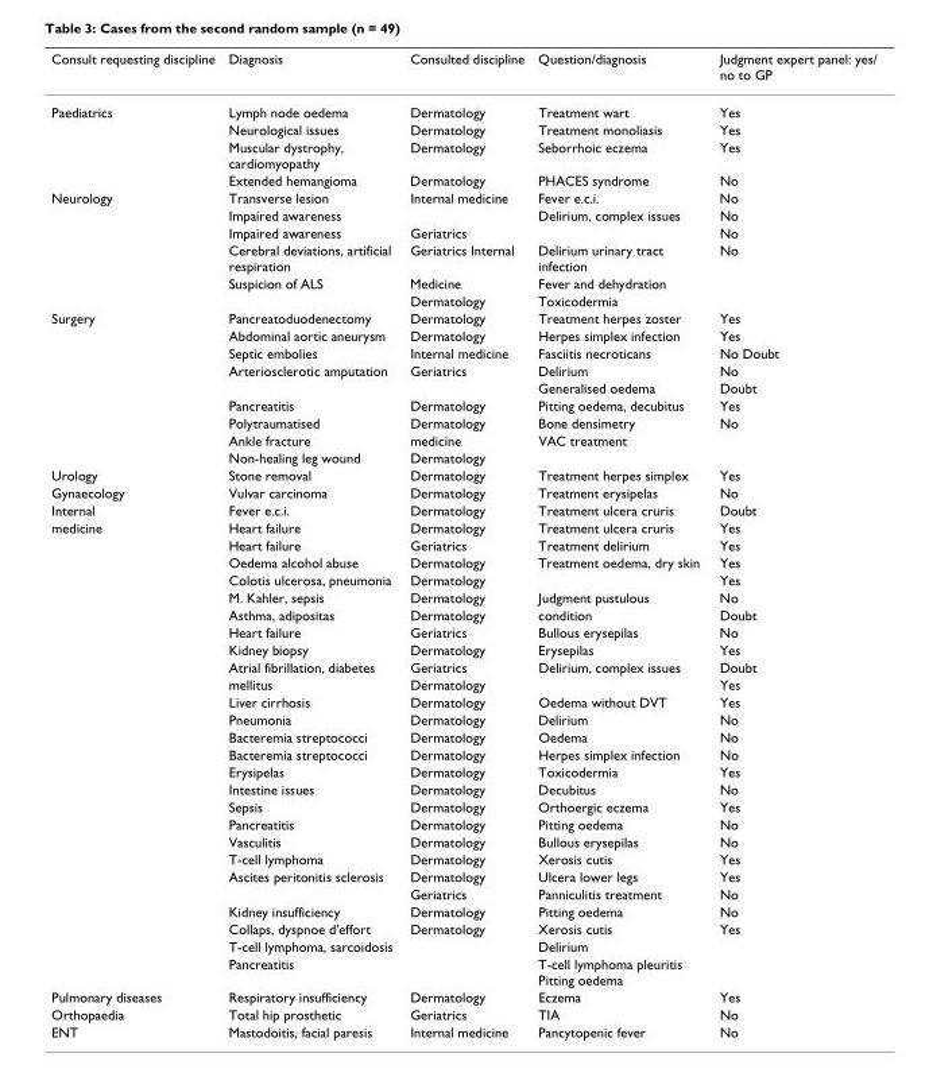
<table><thead><tr><td>Consult requesting discipline</td><td>Diagnosis</td><td>Consulted discipline</td><td>Question/diagnosis</td><td>Judgment expert panel: yes/ no to GP</td></tr></thead><tbody><tr><td rowspan="4">Paediatrics</td><td>Lymph node oedema</td><td>Dermatology</td><td>Treatment wart</td><td>Yes</td></tr><tr><td>Neurological issues</td><td>Dermatology</td><td>Treatment monoliasis</td><td>Yes</td></tr><tr><td>Muscular dystrophy, cardiomyopathy</td><td>Dermatology</td><td>Seborrhoic eczema</td><td>Yes</td></tr><tr><td>Extended hemangioma</td><td>Dermatology</td><td>PHACES syndrome</td><td>No</td></tr><tr><td rowspan="6">Neurology</td><td>Transverse lesion</td><td>Internal medicine</td><td>Fever e.c.i.</td><td>No</td></tr><tr><td>Impaired awareness</td><td></td><td>Delirium, complex issues</td><td>No</td></tr><tr><td>Impaired awareness</td><td>Geriatrics</td><td></td><td>No</td></tr><tr><td>Cerebral deviations, artificial respiration</td><td>Geriatrics Internal</td><td>Delirium urinary tract infection</td><td>No</td></tr><tr><td>Suspicion of ALS</td><td>Medicine</td><td>Fever and dehydration</td><td></td></tr><tr><td></td><td>Dermatology</td><td>Toxicodermia</td><td></td></tr><tr><td rowspan="9">Surgery</td><td>Pancreatoduodenectomy</td><td>Dermatology</td><td>Treatment herpes zoster</td><td>Yes</td></tr><tr><td>Abdominal aortic aneurysm</td><td>Dermatology</td><td>Herpes simplex infection</td><td>Yes</td></tr><tr><td>Septic embolies</td><td>Internal medicine</td><td>Fasciitis necroticans</td><td>No Doubt</td></tr><tr><td>Arteriosclerotic amputation</td><td>Geriatrics</td><td>Delirium</td><td>No</td></tr><tr><td></td><td></td><td>Generalised oedema</td><td>Doubt</td></tr><tr><td>Pancreatitis</td><td>Dermatology</td><td>Pitting oedema, decubitus</td><td>Yes</td></tr><tr><td>Polytraumatised</td><td>Dermatology</td><td>Bone densimetry</td><td>No</td></tr><tr><td>Ankle fracture</td><td>medicine</td><td>VAC treatment</td><td></td></tr><tr><td>Non-healing leg wound</td><td>Dermatology</td><td></td><td></td></tr><tr><td>Urology</td><td>Stone removal</td><td>Dermatology</td><td>Treatment herpes simplex</td><td>Yes</td></tr><tr><td>Gynaecology</td><td>Vulvar carcinoma</td><td>Dermatology</td><td>Treatment erysipelas</td><td>No</td></tr><tr><td>Internal</td><td>Fever e.c.i.</td><td>Dermatology</td><td>Treatment ulcera cruris</td><td>Doubt</td></tr><tr><td rowspan="26">medicine</td><td>Heart failure</td><td>Dermatology</td><td>Treatment ulcera cruris</td><td>Yes</td></tr><tr><td>Heart failure</td><td>Geriatrics</td><td>Treatment delirium</td><td>Yes</td></tr><tr><td>Oedema alcohol abuse</td><td>Dermatology</td><td>Treatment oedema, dry skin</td><td>Yes</td></tr><tr><td>Colotis ulcerosa, pneumonia</td><td>Dermatology</td><td></td><td>Yes</td></tr><tr><td>M. Kahler, sepsis</td><td>Dermatology</td><td>Judgment pustulous</td><td>No</td></tr><tr><td>Asthma, adipositas</td><td>Dermatology</td><td>condition</td><td>Doubt</td></tr><tr><td>Heart failure</td><td>Geriatrics</td><td>Bullous erysepilas</td><td>No</td></tr><tr><td>Kidney biopsy</td><td>Dermatology</td><td>Erysepilas</td><td>Yes</td></tr><tr><td>Atrial fibrillation, diabetes</td><td>Geriatrics</td><td>Delirium, complex issues</td><td>Doubt</td></tr><tr><td>mellitus</td><td>Dermatology</td><td></td><td>Yes</td></tr><tr><td>Liver cirrhosis</td><td>Dermatology</td><td>Oedema without DVT</td><td>Yes</td></tr><tr><td>Pneumonia</td><td>Dermatology</td><td>Delirium</td><td>No</td></tr><tr><td>Bacteremia streptococci</td><td>Dermatology</td><td>Oedema</td><td>No</td></tr><tr><td>Bacteremia streptococci</td><td>Dermatology</td><td>Herpes simplex infection</td><td>No</td></tr><tr><td>Erysipelas</td><td>Dermatology</td><td>Toxicodermia</td><td>Yes</td></tr><tr><td>Intestine issues</td><td>Dermatology</td><td>Decubitus</td><td>No</td></tr><tr><td>Sepsis</td><td>Dermatology</td><td>Orthoergic eczema</td><td>Yes</td></tr><tr><td>Pancreatitis</td><td>Dermatology</td><td>Pitting oedema</td><td>No</td></tr><tr><td>Vasculitis</td><td>Dermatology</td><td>Bullous erysepilas</td><td>No</td></tr><tr><td>T-cell lymphoma</td><td>Dermatology</td><td>Xerosis cutis</td><td>Yes</td></tr><tr><td>Ascites peritonitis sclerosis</td><td>Dermatology</td><td>Ulcera lower legs</td><td>Yes</td></tr><tr><td></td><td>Geriatrics</td><td>Panniculitis treatment</td><td>No</td></tr><tr><td>Kidney insufficiency</td><td>Dermatology</td><td>Pitting oedema</td><td>No</td></tr><tr><td>Collaps, dyspnoe d&#x27;effort</td><td>Dermatology</td><td>Xerosis cutis</td><td>Yes</td></tr><tr><td>T-cell lymphoma, sarcoidosis</td><td></td><td>Delirium</td><td></td></tr><tr><td>Pancreatitis</td><td></td><td>T-cell lymphoma pleuritis Pitting oedema</td><td></td></tr><tr><td>Pulmonary diseases</td><td>Respiratory insufficiency</td><td>Dermatology</td><td>Eczema</td><td>Yes</td></tr><tr><td>Orthopaedia</td><td>Total hip prosthetic</td><td>Geriatrics</td><td>TIA</td><td>No</td></tr><tr><td>ENT</td><td>Mastodoitis, facial paresis</td><td>Internal medicine</td><td>Pancytopenic fever</td><td>No</td></tr></tbody></table>